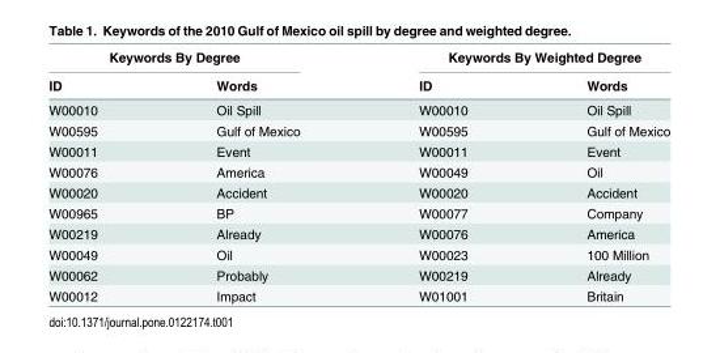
<table><thead><tr><td colspan="2">Keywords By Degree</td><td colspan="2">Keywords By Weighted Degree</td></tr><tr><td>ID</td><td>Words</td><td>ID</td><td>Words</td></tr></thead><tbody><tr><td>W00010</td><td>Oil Spill</td><td>W00010</td><td>Oil Spill</td></tr><tr><td>W00595</td><td>Gulf of Mexico</td><td>W00595</td><td>Gulf of Mexico</td></tr><tr><td>W00011</td><td>Event</td><td>W00011</td><td>Event</td></tr><tr><td>W00076</td><td>America</td><td>W00049</td><td>Oil</td></tr><tr><td>W00020</td><td>Accident</td><td>W00020</td><td>Accident</td></tr><tr><td>W00965</td><td>BP</td><td>W00077</td><td>Company</td></tr><tr><td>W00219</td><td>Already</td><td>W00076</td><td>America</td></tr><tr><td>W00049</td><td>Oil</td><td>W00023</td><td>100 Million</td></tr><tr><td>W00062</td><td>Probably</td><td>W00219</td><td>Already</td></tr><tr><td>W00012</td><td>Impact</td><td>W01001</td><td>Britain</td></tr></tbody></table>